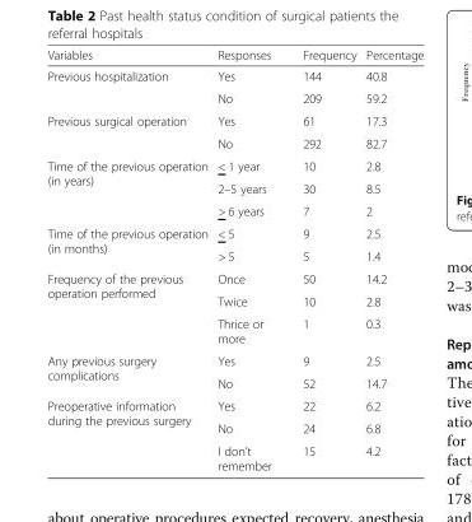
<table><thead><tr><td>Variables</td><td>Responses</td><td>Frequency</td><td>Percentage</td></tr></thead><tbody><tr><td rowspan="2">Previous hospitalization</td><td>Yes</td><td>144</td><td>40.8</td></tr><tr><td>No</td><td>209</td><td>59.2</td></tr><tr><td rowspan="2">Previous surgical operation</td><td>Yes</td><td>61</td><td>17.3</td></tr><tr><td>No</td><td>292</td><td>82.7</td></tr><tr><td rowspan="3">Time of the previous operation (in years)</td><td>&lt; 1 year</td><td>10</td><td>2.8</td></tr><tr><td>2–5 years</td><td>30</td><td>8.5</td></tr><tr><td>&gt; 6 years</td><td>7</td><td>2</td></tr><tr><td rowspan="2">Time of the previous operation (in months)</td><td>&lt; 5</td><td>9</td><td>2.5</td></tr><tr><td>&gt; 5</td><td>5</td><td>1.4</td></tr><tr><td rowspan="3">Frequency of the previous operation performed</td><td>Once</td><td>50</td><td>14.2</td></tr><tr><td>Twice</td><td>10</td><td>2.8</td></tr><tr><td>Thrice or more</td><td>1</td><td>0.3</td></tr><tr><td rowspan="2">Any previous surgery complications</td><td>Yes</td><td>9</td><td>2.5</td></tr><tr><td>No</td><td>52</td><td>14.7</td></tr><tr><td rowspan="3">Preoperative information during the previous surgery</td><td>Yes</td><td>22</td><td>6.2</td></tr><tr><td>No</td><td>24</td><td>6.8</td></tr><tr><td>I don’t remember</td><td>15</td><td>4.2</td></tr></tbody></table>